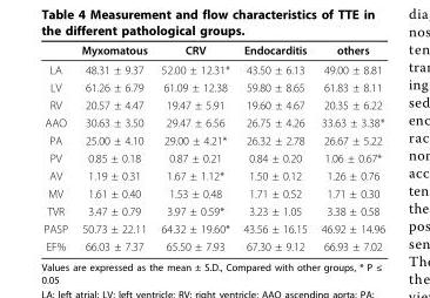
<table><thead><tr><td></td><td>Myxomatous</td><td>CRV</td><td>Endocarditis</td><td>others</td></tr></thead><tbody><tr><td>LA</td><td>48.31 ± 9.37</td><td>52.00 ± 12.31*</td><td>43.50 ± 6.13</td><td>49.00 ± 8.81</td></tr><tr><td>LV</td><td>61.26 ± 6.79</td><td>61.09 ± 12.38</td><td>59.80 ± 8.65</td><td>61.83 ± 8.11</td></tr><tr><td>RV</td><td>20.57 ± 4.47</td><td>19.47 ± 5.91</td><td>19.60 ± 4.67</td><td>20.35 ± 6.22</td></tr><tr><td>AAO</td><td>30.63 ± 3.50</td><td>29.47 ± 6.56</td><td>26.75 ± 4.26</td><td>33.63 ± 3.38*</td></tr><tr><td>PA</td><td>25.00 ± 4.10</td><td>29.00 ± 4.21*</td><td>26.32 ± 2.78</td><td>26.67 ± 5.22</td></tr><tr><td>PV</td><td>0.85 ± 0.18</td><td>0.87 ± 0.21</td><td>0.84 ± 0.20</td><td>1.06 ± 0.67*</td></tr><tr><td>AV</td><td>1.19 ± 0.31</td><td>1.67 ± 1.12*</td><td>1.50 ± 0.12</td><td>1.26 ± 0.76</td></tr><tr><td>MV</td><td>1.61 ± 0.40</td><td>1.53 ± 0.48</td><td>1.71 ± 0.52</td><td>1.71 ± 0.30</td></tr><tr><td>TVR</td><td>3.47 ± 0.79</td><td>3.97 ± 0.59*</td><td>3.23 ± 1.05</td><td>3.38 ± 0.58</td></tr><tr><td>PASP</td><td>50.73 ± 22.11</td><td>64.32 ± 19.60*</td><td>43.56 ± 16.15</td><td>46.92 ± 14.96</td></tr><tr><td>EF%</td><td>66.03 ± 7.37</td><td>65.50 ± 7.93</td><td>67.30 ± 9.12</td><td>66.93 ± 7.02</td></tr></tbody></table>